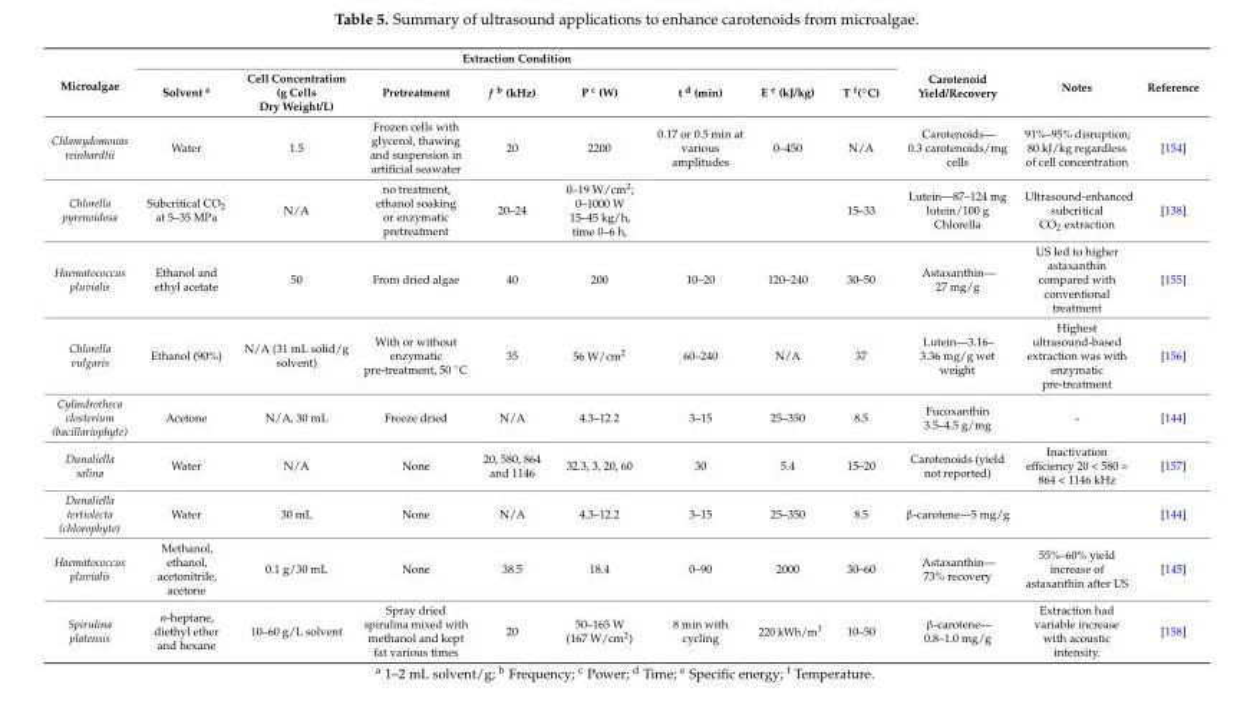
<table><thead><tr><td rowspan="2">Microalgae</td><td colspan="8">Extraction Condition</td><td rowspan="2">Carotenoid Yield/Recovery</td><td rowspan="2">Notes</td><td rowspan="2">Reference</td></tr><tr><td>Solvent <sup>a</sup></td><td>Cell Concentration (g Cells Dry Weight/L)</td><td>Pretreatment</td><td>f <sup>b</sup> (kHz)</td><td>P <sup>c</sup> (W)</td><td>t <sup>d</sup> (min)</td><td>E <sup>e</sup> (kJ/kg)</td><td>T f(◦C)</td></tr></thead><tbody><tr><td>Chlamydomonas reinhardtii</td><td>Water</td><td>1.5</td><td>Frozen cells with glycerol, thawing and suspension in artificial seawater</td><td>20</td><td>2200</td><td>0.17 or 0.5 min at various amplitudes</td><td>0–450</td><td>N/A</td><td>Carotenoids— 0.3 carotenoids/mg cells</td><td>91%–95% disruption; 80 kJ/kg regardless of cell concentration</td><td>[154]</td></tr><tr><td>Chlorella pyrenoidosa</td><td>Subcritical CO<sub>2</sub> at 5–35 MPa</td><td>N/A</td><td>no treatment, ethanol soaking or enzymatic pretreatment</td><td>20–24</td><td>0–19 W/cm<sup>2</sup>; 0–1000 W 15–45 kg/h, time 0–6 h,</td><td></td><td></td><td>15–33</td><td>Lutein—87–124 mg lutein/100 g Chlorella</td><td>Ultrasound-enhanced subcritical CO<sub>2</sub> extraction</td><td>[138]</td></tr><tr><td>Haematococcus pluvialis</td><td>Ethanol and ethyl acetate</td><td>50</td><td>From dried algae</td><td>40</td><td>200</td><td>10–20</td><td>120–240</td><td>30–50</td><td>Astaxanthin— 27 mg/g</td><td>US led to higher astaxanthin compared with conventional treatment</td><td>[155]</td></tr><tr><td>Chlorella vulgaris</td><td>Ethanol (90%)</td><td>N/A (31 mL solid/g solvent)</td><td>With or without enzymatic pre-treatment, 50 ◦C</td><td>35</td><td>56 W/cm<sup>2</sup></td><td>60–240</td><td>N/A</td><td>37</td><td>Lutein—3.16– 3.36 mg/g wet weight</td><td>Highest ultrasound-based extraction was with enzymatic pre-treatment</td><td>[156]</td></tr><tr><td>Cylindrotheca closterium (bacillariophyte)</td><td>Acetone</td><td>N/A, 30 mL</td><td>Freeze dried</td><td>N/A</td><td>4.3–12.2</td><td>3–15</td><td>25–350</td><td>8.5</td><td>Fucoxanthin 3.5–4.5 g/mg</td><td>-</td><td>[144]</td></tr><tr><td>Dunaliella salina</td><td>Water</td><td>N/A</td><td>None</td><td>20, 580, 864 and 1146</td><td>32.3, 3, 20, 60</td><td>30</td><td>5.4</td><td>15–20</td><td>Carotenoids (yield not reported)</td><td>Inactivation efficiency 20 &lt; 580 = 864 &lt; 1146 kHz</td><td>[157]</td></tr><tr><td>Dunaliella tertiolecta (chlorophyte)</td><td>Water</td><td>30 mL</td><td>None</td><td>N/A</td><td>4.3–12.2</td><td>3–15</td><td>25–350</td><td>8.5</td><td>β-carotene—5 mg/g</td><td></td><td>[144]</td></tr><tr><td>Haematococcus pluvialis</td><td>Methanol, ethanol, acetonitrile, acetone</td><td>0.1 g/30 mL</td><td>None</td><td>38.5</td><td>18.4</td><td>0–90</td><td>2000</td><td>30–60</td><td>Astaxanthin— 73% recovery</td><td>55%–60% yield increase of astaxanthin after US</td><td>[145]</td></tr><tr><td>Spirulina platensis</td><td>n-heptane, diethyl ether and hexane</td><td>10–60 g/L solvent</td><td>Spray dried spirulina mixed with methanol and kept fat various times</td><td>20</td><td>50–165 W (167 W/cm<sup>2</sup>)</td><td>8 min with cycling</td><td>220 kWh/m<sup>3</sup></td><td>10–50</td><td>β-carotene— 0.8–1.0 mg/g</td><td>Extraction had variable increase with acoustic intensity.</td><td>[158]</td></tr></tbody></table>